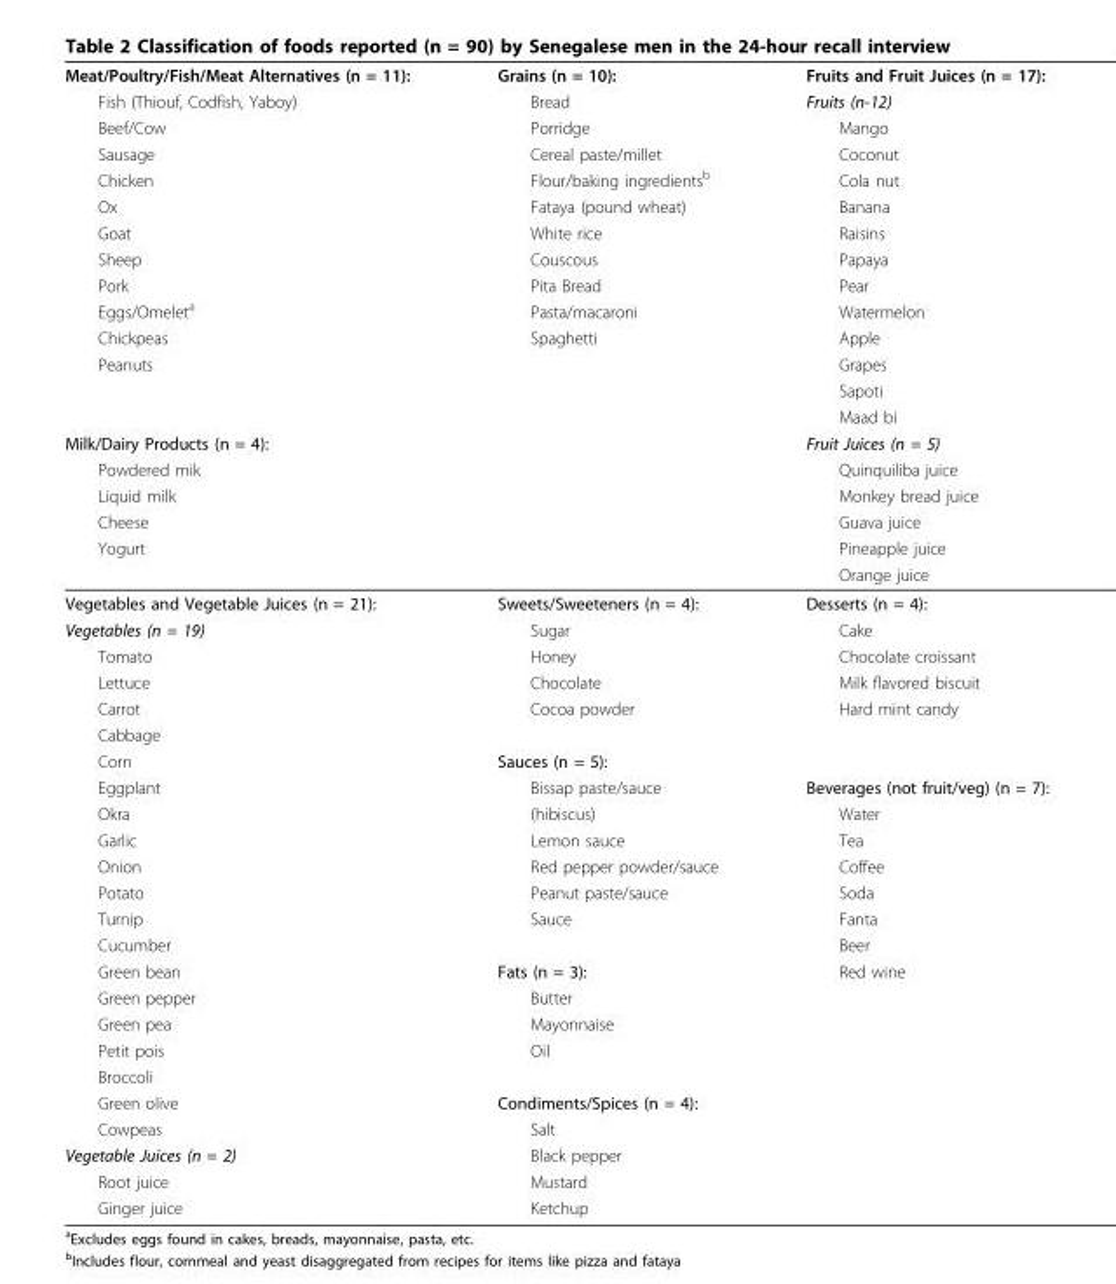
<table><thead><tr><td rowspan="20">Meat/Poultry/Fish/Meat Alternatives (n = 11): Fish (Thiouf, Codfish, Yaboy) Beef/Cow Sausage Chicken Ox Goat Sheep Pork Eggs/Omeleta Chickpeas Peanuts Milk/Dairy Products (n = 4): Powdered mik Liquid milk Cheese Yogurt</td><td rowspan="20">Grains (n = 10): Bread Porridge Cereal paste/millet Flour/baking ingredientsb Fataya (pound wheat) White rice Couscous Pita Bread Pasta/macaroni Spaghetti</td><td rowspan="20">Fruits and Fruit Juices (n = 17): Fruits (n-12) Mango Coconut Cola nut Banana Raisins Papaya Pear Watermelon Apple Grapes Sapoti Maad bi Fruit Juices (n = 5) Quinquiliba juice Monkey bread juice Guava juice Pineapple juice Orange juice</td></tr><tr></tr><tr></tr><tr></tr><tr></tr><tr></tr><tr></tr><tr></tr><tr></tr><tr></tr><tr></tr><tr></tr><tr></tr><tr></tr><tr></tr><tr></tr><tr></tr><tr></tr><tr></tr><tr></tr></thead><tbody><tr><td>Vegetables and Vegetable Juices (n = 21):</td><td>Sweets/Sweeteners (n = 4):</td><td>Desserts (n = 4):</td></tr><tr><td>Vegetables (n = 19)</td><td>Sugar</td><td>Cake</td></tr><tr><td>Tomato</td><td>Honey</td><td>Chocolate croissant</td></tr><tr><td>Lettuce</td><td>Chocolate</td><td>Milk flavored biscuit</td></tr><tr><td>Carrot</td><td>Cocoa powder</td><td>Hard mint candy</td></tr><tr><td colspan="3">Cabbage</td></tr><tr><td>Corn</td><td>Sauces (n = 5):</td><td></td></tr><tr><td>Eggplant</td><td>Bissap paste/sauce</td><td>Beverages (not fruit/veg) (n = 7):</td></tr><tr><td>Okra</td><td>(hibiscus)</td><td>Water</td></tr><tr><td>Garlic</td><td>Lemon sauce</td><td>Tea</td></tr><tr><td>Onion</td><td>Red pepper powder/sauce</td><td>Coffee</td></tr><tr><td>Potato</td><td>Peanut paste/sauce</td><td>Soda</td></tr><tr><td>Turnip</td><td>Sauce</td><td>Fanta</td></tr><tr><td>Cucumber</td><td></td><td>Beer</td></tr><tr><td>Green bean</td><td>Fats (n = 3):</td><td>Red wine</td></tr><tr><td>Green pepper</td><td>Butter</td><td></td></tr><tr><td>Green pea</td><td>Mayonnaise</td><td></td></tr><tr><td>Petit pois</td><td>Oil</td><td></td></tr><tr><td colspan="3">Broccoli</td></tr><tr><td>Green olive</td><td>Condiments/Spices (n = 4):</td><td></td></tr><tr><td>Cowpeas</td><td>Salt</td><td></td></tr><tr><td>Vegetable Juices (n = 2)</td><td>Black pepper</td><td></td></tr><tr><td>Root juice</td><td>Mustard</td><td></td></tr><tr><td>Ginger juice</td><td>Ketchup</td><td></td></tr></tbody></table>